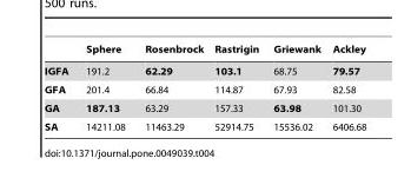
<table><thead><tr><td></td><td>Sphere</td><td>Rosenbrock</td><td>Rastrigin</td><td>Griewank</td><td>Ackley</td></tr></thead><tbody><tr><td>IGFA</td><td>191.2</td><td>62.29</td><td>103.1</td><td>68.75</td><td>79.57</td></tr><tr><td>GFA</td><td>201.4</td><td>66.84</td><td>114.87</td><td>67.93</td><td>82.58</td></tr><tr><td>GA</td><td>187.13</td><td>63.29</td><td>157.33</td><td>63.98</td><td>101.30</td></tr><tr><td>SA</td><td>14211.08</td><td>11463.29</td><td>52914.75</td><td>15536.02</td><td>6406.68</td></tr></tbody></table>